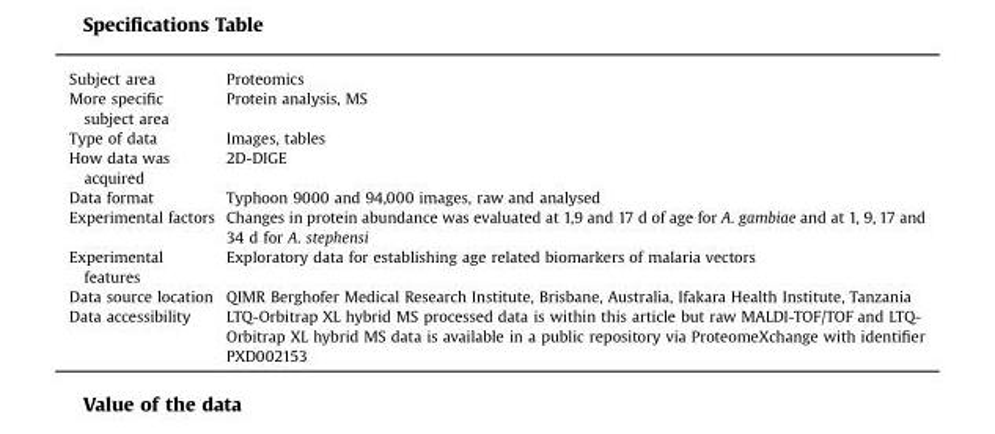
<table><tbody><tr><td>Subject area</td><td>Proteomics</td></tr><tr><td>More specific subject area</td><td>Protein analysis, MS</td></tr><tr><td>Type of data</td><td>Images, tables</td></tr><tr><td>How data was acquired</td><td>2D-DIGE</td></tr><tr><td>Data format</td><td>Typhoon 9000 and 94,000 images, raw and analysed</td></tr><tr><td>Experimental factors</td><td>Changes in protein abundance was evaluated at 1,9 and 17 d of age for A. gambiae and at 1, 9, 17 and 34 d for A. stephensi</td></tr><tr><td>Experimental features</td><td>Exploratory data for establishing age related biomarkers of malaria vectors</td></tr><tr><td>Data source location</td><td>QIMR Berghofer Medical Research Institute, Brisbane, Australia, Ifakara Health Institute, Tanzania</td></tr><tr><td>Data accessibility</td><td>LTQ-Orbitrap XL hybrid MS processed data is within this article but raw MALDI-TOF/TOF and LTQ- Orbitrap XL hybrid MS data is available in a public repository via ProteomeXchange with identifier PXD002153</td></tr></tbody></table>